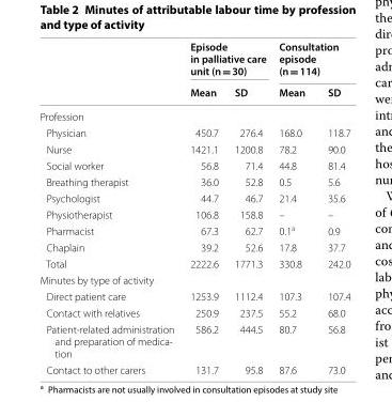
<table><thead><tr><td rowspan="2"></td><td colspan="2">Episode in palliative care unit (n = 30)</td><td colspan="2">Consultation episode (n = 114)</td></tr><tr><td>Mean</td><td>SD</td><td>Mean</td><td>SD</td></tr></thead><tbody><tr><td colspan="5">Profession</td></tr><tr><td>Physician</td><td>450.7</td><td>276.4</td><td>168.0</td><td>118.7</td></tr><tr><td>Nurse</td><td>1421.1</td><td>1200.8</td><td>78.2</td><td>90.0</td></tr><tr><td>Social worker</td><td>56.8</td><td>71.4</td><td>44.8</td><td>81.4</td></tr><tr><td>Breathing therapist</td><td>36.0</td><td>52.8</td><td>0.5</td><td>5.6</td></tr><tr><td>Psychologist</td><td>44.7</td><td>46.7</td><td>21.4</td><td>35.6</td></tr><tr><td>Physiotherapist</td><td>106.8</td><td>158.8</td><td>–</td><td>–</td></tr><tr><td>Pharmacist</td><td>67.3</td><td>62.7</td><td>0.1<sup>a</sup></td><td>0.9</td></tr><tr><td>Chaplain</td><td>39.2</td><td>52.6</td><td>17.8</td><td>37.7</td></tr><tr><td>Total</td><td>2222.6</td><td>1771.3</td><td>330.8</td><td>242.0</td></tr><tr><td colspan="5">Minutes by type of activity</td></tr><tr><td>Direct patient care</td><td>1253.9</td><td>1112.4</td><td>107.3</td><td>107.4</td></tr><tr><td>Contact with relatives</td><td>250.9</td><td>237.5</td><td>55.2</td><td>68.0</td></tr><tr><td>Patient-related administration and preparation of medica- tion</td><td>586.2</td><td>444.5</td><td>80.7</td><td>56.8</td></tr><tr><td>Contact to other carers</td><td>131.7</td><td>95.8</td><td>87.6</td><td>73.0</td></tr></tbody></table>